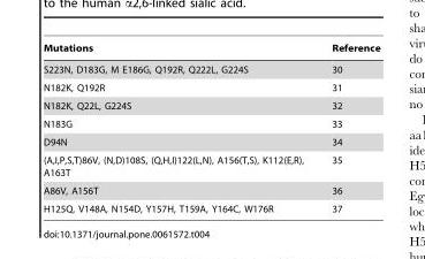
<table><thead><tr><td>Mutations</td><td>Reference</td></tr></thead><tbody><tr><td>S223N, D183G, M E186G, Q192R, Q222L, G224S</td><td>30</td></tr><tr><td>N182K, Q192R</td><td>31</td></tr><tr><td>N182K, Q22L, G224S</td><td>32</td></tr><tr><td>N183G</td><td>33</td></tr><tr><td>D94N</td><td>34</td></tr><tr><td>(A,I,P,S,T)86V, (N,D)108S, (Q,H,I)122(L,N), A156(T,S), K112(E,R), A163T</td><td>35</td></tr><tr><td>A86V, A156T</td><td>36</td></tr><tr><td>H125Q, V148A, N154D, Y157H, T159A, Y164C, W176R</td><td>37</td></tr></tbody></table>